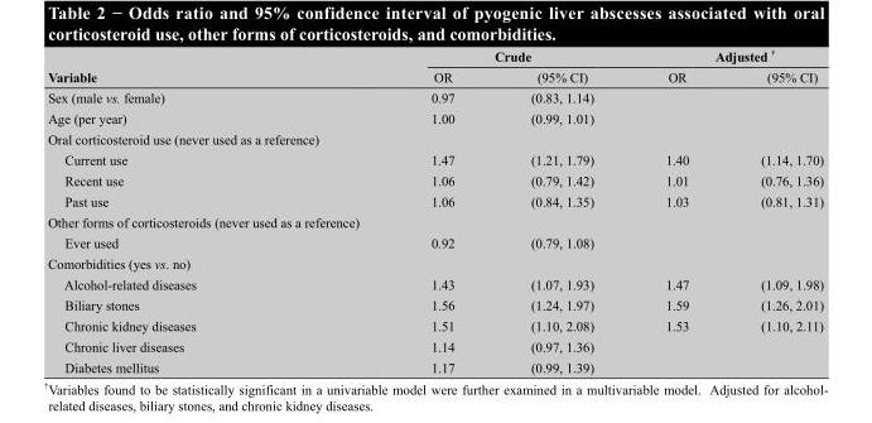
<table><thead><tr><td rowspan="2">Variable</td><td colspan="2">Crude</td><td colspan="2">Adjusted †</td></tr><tr><td>OR</td><td>(95% CI)</td><td>OR</td><td>(95% CI)</td></tr></thead><tbody><tr><td>Sex (male vs. female)</td><td>0.97</td><td>(0.83, 1.14)</td><td></td><td></td></tr><tr><td>Age (per year)</td><td>1.00</td><td>(0.99, 1.01)</td><td></td><td></td></tr><tr><td colspan="5">Oral corticosteroid use (never used as a reference)</td></tr><tr><td>Current use</td><td>1.47</td><td>(1.21, 1.79)</td><td>1.40</td><td>(1.14, 1.70)</td></tr><tr><td>Recent use</td><td>1.06</td><td>(0.79, 1.42)</td><td>1.01</td><td>(0.76, 1.36)</td></tr><tr><td>Past use</td><td>1.06</td><td>(0.84, 1.35)</td><td>1.03</td><td>(0.81, 1.31)</td></tr><tr><td colspan="5">Other forms of corticosteroids (never used as a reference)</td></tr><tr><td>Ever used</td><td>0.92</td><td>(0.79, 1.08)</td><td></td><td></td></tr><tr><td colspan="5">Comorbidities (yes vs. no)</td></tr><tr><td>Alcohol-related diseases</td><td>1.43</td><td>(1.07, 1.93)</td><td>1.47</td><td>(1.09, 1.98)</td></tr><tr><td>Biliary stones</td><td>1.56</td><td>(1.24, 1.97)</td><td>1.59</td><td>(1.26, 2.01)</td></tr><tr><td>Chronic kidney diseases</td><td>1.51</td><td>(1.10, 2.08)</td><td>1.53</td><td>(1.10, 2.11)</td></tr><tr><td>Chronic liver diseases</td><td>1.14</td><td>(0.97, 1.36)</td><td></td><td></td></tr><tr><td>Diabetes mellitus</td><td>1.17</td><td>(0.99, 1.39)</td><td></td><td></td></tr></tbody></table>